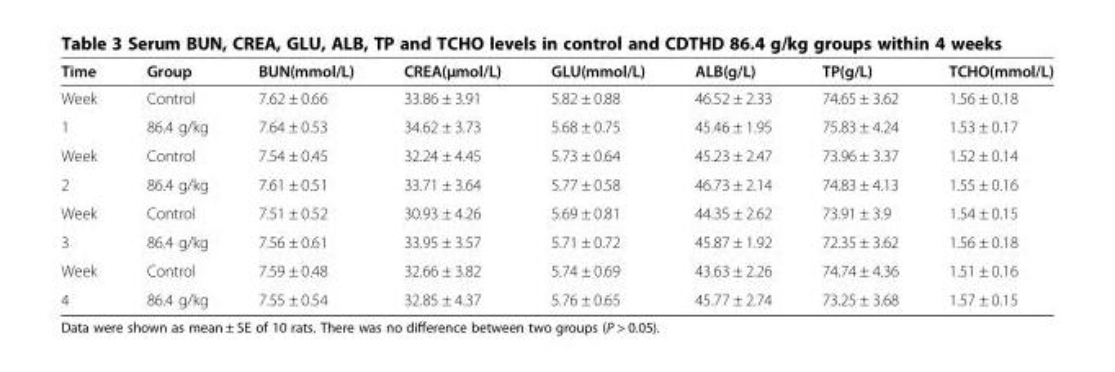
<table><thead><tr><td>Time</td><td>Group</td><td>BUN(mmol/L)</td><td>CREA(μmol/L)</td><td>GLU(mmol/L)</td><td>ALB(g/L)</td><td>TP(g/L)</td><td>TCHO(mmol/L)</td></tr></thead><tbody><tr><td>Week</td><td>Control</td><td>7.62 ± 0.66</td><td>33.86 ± 3.91</td><td>5.82 ± 0.88</td><td>46.52 ± 2.33</td><td>74.65 ± 3.62</td><td>1.56 ± 0.18</td></tr><tr><td>1</td><td>86.4 g/kg</td><td>7.64 ± 0.53</td><td>34.62 ± 3.73</td><td>5.68 ± 0.75</td><td>45.46 ± 1.95</td><td>75.83 ± 4.24</td><td>1.53 ± 0.17</td></tr><tr><td>Week</td><td>Control</td><td>7.54 ± 0.45</td><td>32.24 ± 4.45</td><td>5.73 ± 0.64</td><td>45.23 ± 2.47</td><td>73.96 ± 3.37</td><td>1.52 ± 0.14</td></tr><tr><td>2</td><td>86.4 g/kg</td><td>7.61 ± 0.51</td><td>33.71 ± 3.64</td><td>5.77 ± 0.58</td><td>46.73 ± 2.14</td><td>74.83 ± 4.13</td><td>1.55 ± 0.16</td></tr><tr><td>Week</td><td>Control</td><td>7.51 ± 0.52</td><td>30.93 ± 4.26</td><td>5.69 ± 0.81</td><td>44.35 ± 2.62</td><td>73.91 ± 3.9</td><td>1.54 ± 0.15</td></tr><tr><td>3</td><td>86.4 g/kg</td><td>7.56 ± 0.61</td><td>33.95 ± 3.57</td><td>5.71 ± 0.72</td><td>45.87 ± 1.92</td><td>72.35 ± 3.62</td><td>1.56 ± 0.18</td></tr><tr><td>Week</td><td>Control</td><td>7.59 ± 0.48</td><td>32.66 ± 3.82</td><td>5.74 ± 0.69</td><td>43.63 ± 2.26</td><td>74.74 ± 4.36</td><td>1.51 ± 0.16</td></tr><tr><td>4</td><td>86.4 g/kg</td><td>7.55 ± 0.54</td><td>32.85 ± 4.37</td><td>5.76 ± 0.65</td><td>45.77 ± 2.74</td><td>73.25 ± 3.68</td><td>1.57 ± 0.15</td></tr></tbody></table>